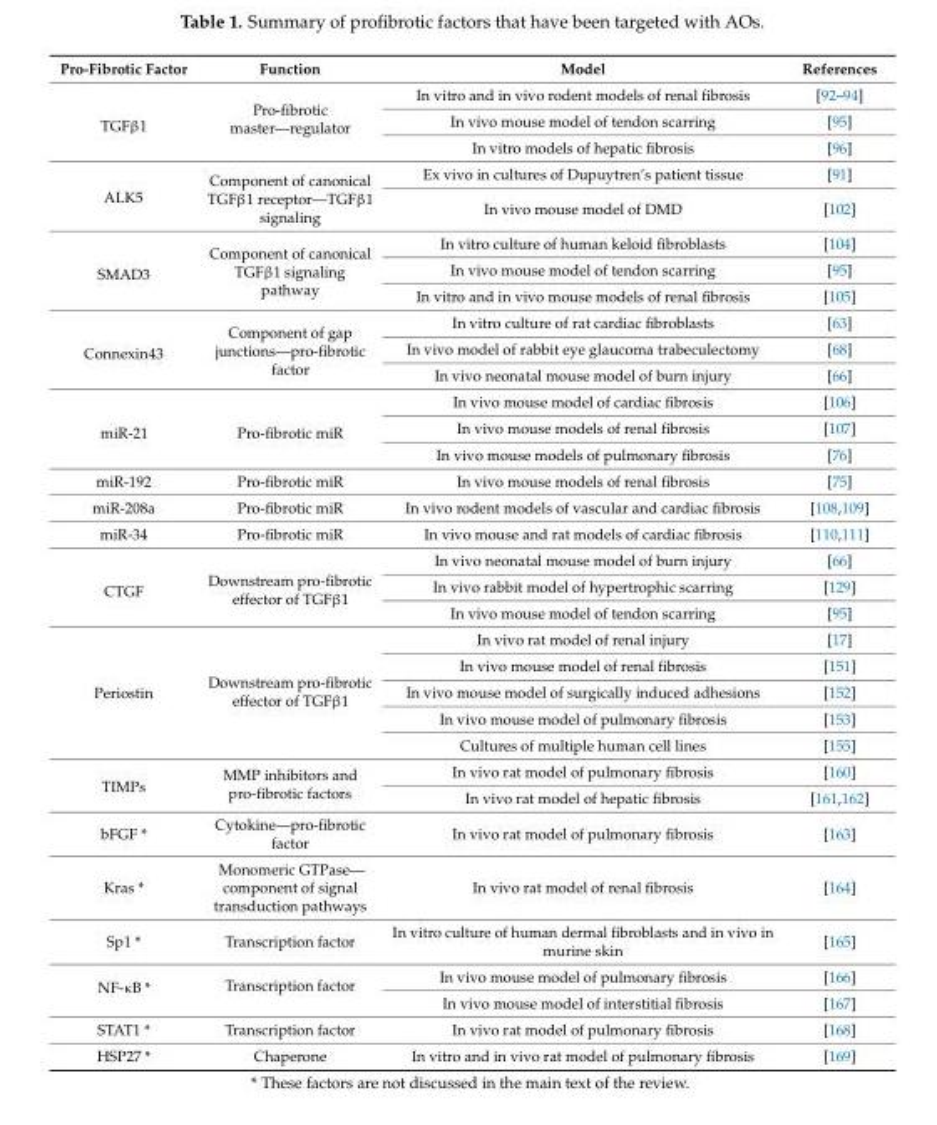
<table><thead><tr><td>Pro-Fibrotic Factor</td><td>Function</td><td>Model</td><td>References</td></tr></thead><tbody><tr><td rowspan="3">TGFβ1</td><td rowspan="3">Pro-fibrotic master—regulator</td><td>In vitro and in vivo rodent models of renal fibrosis</td><td>[92–94]</td></tr><tr><td>In vivo mouse model of tendon scarring</td><td>[95]</td></tr><tr><td>In vitro models of hepatic fibrosis</td><td>[96]</td></tr><tr><td rowspan="2">ALK5</td><td rowspan="2">Component of canonical TGFβ1 receptor—TGFβ1 signaling</td><td>Ex vivo in cultures of Dupuytren’s patient tissue</td><td>[91]</td></tr><tr><td>In vivo mouse model of DMD</td><td>[102]</td></tr><tr><td rowspan="3">SMAD3</td><td rowspan="3">Component of canonical TGFβ1 signaling pathway</td><td>In vitro culture of human keloid fibroblasts</td><td>[104]</td></tr><tr><td>In vivo mouse model of tendon scarring</td><td>[95]</td></tr><tr><td>In vitro and in vivo mouse models of renal fibrosis</td><td>[105]</td></tr><tr><td rowspan="3">Connexin43</td><td rowspan="3">Component of gap junctions—pro-fibrotic factor</td><td>In vitro culture of rat cardiac fibroblasts</td><td>[63]</td></tr><tr><td>In vivo model of rabbit eye glaucoma trabeculectomy</td><td>[68]</td></tr><tr><td>In vivo neonatal mouse model of burn injury</td><td>[66]</td></tr><tr><td rowspan="3">miR-21</td><td rowspan="3">Pro-fibrotic miR</td><td>In vivo mouse model of cardiac fibrosis</td><td>[106]</td></tr><tr><td>In vivo mouse models of renal fibrosis</td><td>[107]</td></tr><tr><td>In vivo mouse models of pulmonary fibrosis</td><td>[76]</td></tr><tr><td>miR-192</td><td>Pro-fibrotic miR</td><td>In vivo mouse models of renal fibrosis</td><td>[75]</td></tr><tr><td>miR-208a</td><td>Pro-fibrotic miR</td><td>In vivo rodent models of vascular and cardiac fibrosis</td><td>[108,109]</td></tr><tr><td>miR-34</td><td>Pro-fibrotic miR</td><td>In vivo mouse and rat models of cardiac fibrosis</td><td>[110,111]</td></tr><tr><td rowspan="3">CTGF</td><td rowspan="3">Downstream pro-fibrotic effector of TGFβ1</td><td>In vivo neonatal mouse model of burn injury</td><td>[66]</td></tr><tr><td>In vivo rabbit model of hypertrophic scarring</td><td>[129]</td></tr><tr><td>In vivo mouse model of tendon scarring</td><td>[95]</td></tr><tr><td rowspan="5">Periostin</td><td rowspan="5">Downstream pro-fibrotic effector of TGFβ1</td><td>In vivo rat model of renal injury</td><td>[17]</td></tr><tr><td>In vivo mouse model of renal fibrosis</td><td>[151]</td></tr><tr><td>In vivo mouse model of surgically induced adhesions</td><td>[152]</td></tr><tr><td>In vivo mouse model of pulmonary fibrosis</td><td>[153]</td></tr><tr><td>Cultures of multiple human cell lines</td><td>[155]</td></tr><tr><td rowspan="2">TIMPs</td><td rowspan="2">MMP inhibitors and pro-fibrotic factors</td><td>In vivo rat model of pulmonary fibrosis</td><td>[160]</td></tr><tr><td>In vivo rat model of hepatic fibrosis</td><td>[161,162]</td></tr><tr><td>bFGF *</td><td>Cytokine—pro-fibrotic factor</td><td>In vivo rat model of pulmonary fibrosis</td><td>[163]</td></tr><tr><td>Kras *</td><td>Monomeric GTPase— component of signal transduction pathways</td><td>In vivo rat model of renal fibrosis</td><td>[164]</td></tr><tr><td>Sp1 *</td><td>Transcription factor</td><td>In vitro culture of human dermal fibroblasts and in vivo in murine skin</td><td>[165]</td></tr><tr><td rowspan="2">NF-κB *</td><td rowspan="2">Transcription factor</td><td>In vivo mouse model of pulmonary fibrosis</td><td>[166]</td></tr><tr><td>In vivo mouse model of interstitial fibrosis</td><td>[167]</td></tr><tr><td>STAT1 *</td><td>Transcription factor</td><td>In vivo rat model of pulmonary fibrosis</td><td>[168]</td></tr><tr><td>HSP27 *</td><td>Chaperone</td><td>In vitro and in vivo rat model of pulmonary fibrosis</td><td>[169]</td></tr></tbody></table>